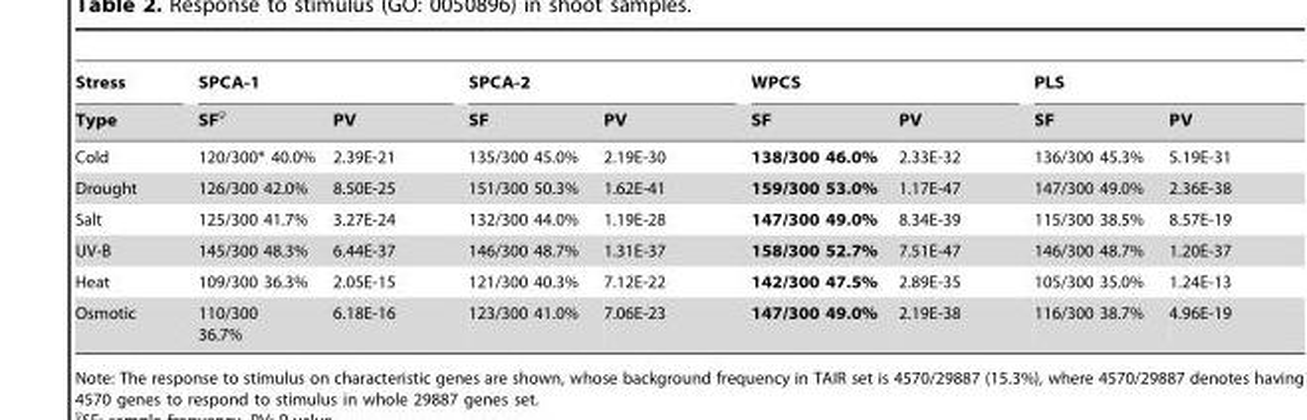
<table><thead><tr><td rowspan="2">Stress Type</td><td colspan="2">SPCA-1</td><td colspan="2">SPCA-2</td><td colspan="2">WPCS</td><td colspan="2">PLS</td></tr><tr><td>SF♀</td><td>PV</td><td>SF</td><td>PV</td><td>SF</td><td>PV</td><td>SF</td><td>PV</td></tr></thead><tbody><tr><td>Cold</td><td>120/300* 40.0%</td><td>2.39E-21</td><td>135/300 45.0%</td><td>2.19E-30</td><td>138/300 46.0%</td><td>2.33E-32</td><td>136/300 45.3%</td><td>5.19E-31</td></tr><tr><td>Drought</td><td>126/300 42.0%</td><td>8.50E-25</td><td>151/300 50.3%</td><td>1.62E-41</td><td>159/300 53.0%</td><td>1.17E-47</td><td>147/300 49.0%</td><td>2.36E-38</td></tr><tr><td>Salt</td><td>125/300 41.7%</td><td>3.27E-24</td><td>132/300 44.0%</td><td>1.19E-28</td><td>147/300 49.0%</td><td>8.34E-39</td><td>115/300 38.5%</td><td>8.57E-19</td></tr><tr><td>UV-B</td><td>145/300 48.3%</td><td>6.44E-37</td><td>146/300 48.7%</td><td>1.31E-37</td><td>158/300 52.7%</td><td>7.51E-47</td><td>146/300 48.7%</td><td>1.20E-37</td></tr><tr><td>Heat</td><td>109/300 36.3%</td><td>2.05E-15</td><td>121/300 40.3%</td><td>7.12E-22</td><td>142/300 47.5%</td><td>2.89E-35</td><td>105/300 35.0%</td><td>1.24E-13</td></tr><tr><td>Osmotic</td><td>110/300 36.7%</td><td>6.18E-16</td><td>123/300 41.0%</td><td>7.06E-23</td><td>147/300 49.0%</td><td>2.19E-38</td><td>116/300 38.7%</td><td>4.96E-19</td></tr></tbody></table>